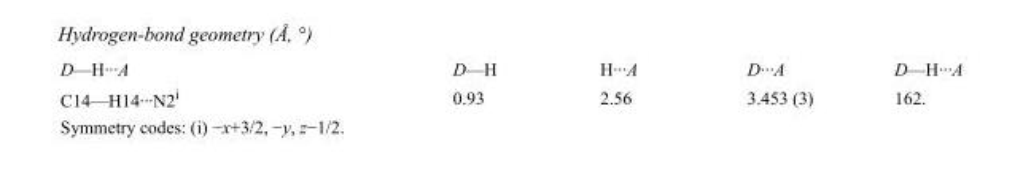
<table><tbody><tr><td>D—H···A</td><td>D—H</td><td>H···A</td><td>D···A</td><td>D—H···A</td></tr><tr><td>C14—H14···N2<sup>i</sup></td><td>0.93</td><td>2.56</td><td>3.453 (3)</td><td>162.</td></tr></tbody></table>